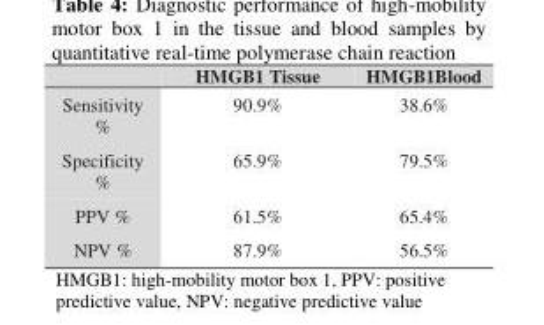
<table><thead><tr><td></td><td>HMGB1 Tissue</td><td>HMGB1Blood</td></tr></thead><tbody><tr><td>Sensitivity %</td><td>90.9%</td><td>38.6%</td></tr><tr><td>Specificity %</td><td>65.9%</td><td>79.5%</td></tr><tr><td>PPV %</td><td>61.5%</td><td>65.4%</td></tr><tr><td>NPV %</td><td>87.9%</td><td>56.5%</td></tr></tbody></table>